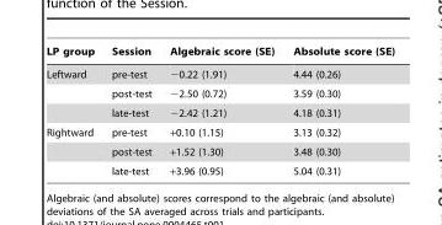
<table><thead><tr><td>LP group</td><td>Session</td><td>Algebraic score (SE)</td><td>Absolute score (SE)</td></tr></thead><tbody><tr><td rowspan="3">Leftward</td><td>pre-test</td><td>−0.22 (1.91)</td><td>4.44 (0.26)</td></tr><tr><td>post-test</td><td>−2.50 (0.72)</td><td>3.59 (0.30)</td></tr><tr><td>late-test</td><td>−2.42 (1.21)</td><td>4.18 (0.31)</td></tr><tr><td rowspan="3">Rightward</td><td>pre-test</td><td>+0.10 (1.15)</td><td>3.13 (0.32)</td></tr><tr><td>post-test</td><td>+1.52 (1.30)</td><td>3.48 (0.30)</td></tr><tr><td>late-test</td><td>+3.96 (0.95)</td><td>5.04 (0.31)</td></tr></tbody></table>